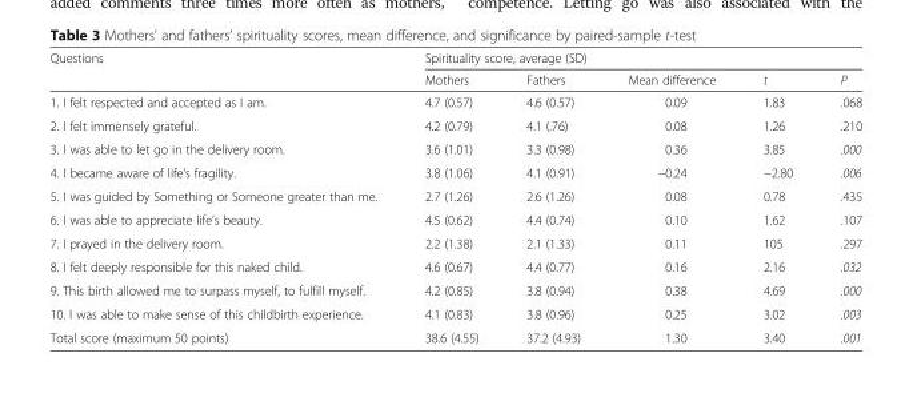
<table><thead><tr><td rowspan="2">Questions</td><td colspan="5">Spirituality score, average (SD)</td></tr><tr><td>Mothers</td><td>Fathers</td><td>Mean difference</td><td>t</td><td>P</td></tr></thead><tbody><tr><td>1. I felt respected and accepted as I am.</td><td>4.7 (0.57)</td><td>4.6 (0.57)</td><td>0.09</td><td>1.83</td><td>.068</td></tr><tr><td>2. I felt immensely grateful.</td><td>4.2 (0.79)</td><td>4.1 (.76)</td><td>0.08</td><td>1.26</td><td>.210</td></tr><tr><td>3. I was able to let go in the delivery room.</td><td>3.6 (1.01)</td><td>3.3 (0.98)</td><td>0.36</td><td>3.85</td><td>.000</td></tr><tr><td>4. I became aware of life’s fragility.</td><td>3.8 (1.06)</td><td>4.1 (0.91)</td><td>−0.24</td><td>−2.80</td><td>.006</td></tr><tr><td>5. I was guided by Something or Someone greater than me.</td><td>2.7 (1.26)</td><td>2.6 (1.26)</td><td>0.08</td><td>0.78</td><td>.435</td></tr><tr><td>6. I was able to appreciate life’s beauty.</td><td>4.5 (0.62)</td><td>4.4 (0.74)</td><td>0.10</td><td>1.62</td><td>.107</td></tr><tr><td>7. I prayed in the delivery room.</td><td>2.2 (1.38)</td><td>2.1 (1.33)</td><td>0.11</td><td>105</td><td>.297</td></tr><tr><td>8. I felt deeply responsible for this naked child.</td><td>4.6 (0.67)</td><td>4.4 (0.77)</td><td>0.16</td><td>2.16</td><td>.032</td></tr><tr><td>9. This birth allowed me to surpass myself, to fulfill myself.</td><td>4.2 (0.85)</td><td>3.8 (0.94)</td><td>0.38</td><td>4.69</td><td>.000</td></tr><tr><td>10. I was able to make sense of this childbirth experience.</td><td>4.1 (0.83)</td><td>3.8 (0.96)</td><td>0.25</td><td>3.02</td><td>.003</td></tr><tr><td>Total score (maximum 50 points)</td><td>38.6 (4.55)</td><td>37.2 (4.93)</td><td>1.30</td><td>3.40</td><td>.001</td></tr></tbody></table>